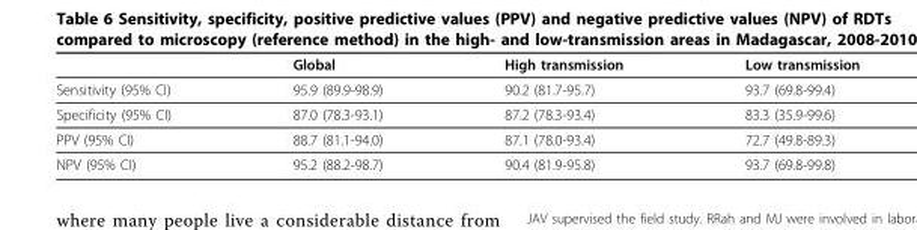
<table><thead><tr><td></td><td>Global</td><td>High transmission</td><td>Low transmission</td></tr></thead><tbody><tr><td>Sensitivity (95% CI)</td><td>95.9 (89.9-98.9)</td><td>90.2 (81.7-95.7)</td><td>93.7 (69.8-99.4)</td></tr><tr><td>Specificity (95% CI)</td><td>87.0 (78.3-93.1)</td><td>87.2 (78.3-93.4)</td><td>83.3 (35.9-99.6)</td></tr><tr><td>PPV (95% CI)</td><td>88.7 (81.1-94.0)</td><td>87.1 (78.0-93.4)</td><td>72.7 (49.8-89.3)</td></tr><tr><td>NPV (95% CI)</td><td>95.2 (88.2-98.7)</td><td>90.4 (81.9-95.8)</td><td>93.7 (69.8-99.8)</td></tr></tbody></table>